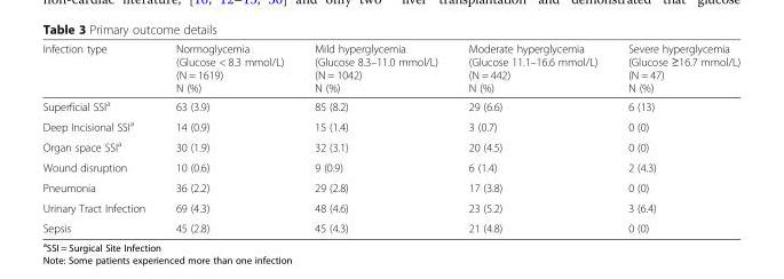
<table><thead><tr><td>Infection type</td><td>Normoglycemia (Glucose &lt; 8.3 mmol/L) (N = 1619) N (%)</td><td>Mild hyperglycemia (Glucose 8.3–11.0 mmol/L) (N = 1042) N (%)</td><td>Moderate hyperglycemia (Glucose 11.1–16.6 mmol/L) (N = 442) N (%)</td><td>Severe hyperglycemia (Glucose ≥16.7 mmol/L) (N = 47) N (%)</td></tr></thead><tbody><tr><td>Superficial SSI<sup>a</sup></td><td>63 (3.9)</td><td>85 (8.2)</td><td>29 (6.6)</td><td>6 (13)</td></tr><tr><td>Deep Incisional SSI<sup>a</sup></td><td>14 (0.9)</td><td>15 (1.4)</td><td>3 (0.7)</td><td>0 (0)</td></tr><tr><td>Organ space SSI<sup>a</sup></td><td>30 (1.9)</td><td>32 (3.1)</td><td>20 (4.5)</td><td>0 (0)</td></tr><tr><td>Wound disruption</td><td>10 (0.6)</td><td>9 (0.9)</td><td>6 (1.4)</td><td>2 (4.3)</td></tr><tr><td>Pneumonia</td><td>36 (2.2)</td><td>29 (2.8)</td><td>17 (3.8)</td><td>0 (0)</td></tr><tr><td>Urinary Tract Infection</td><td>69 (4.3)</td><td>48 (4.6)</td><td>23 (5.2)</td><td>3 (6.4)</td></tr><tr><td>Sepsis</td><td>45 (2.8)</td><td>45 (4.3)</td><td>21 (4.8)</td><td>0 (0)</td></tr></tbody></table>